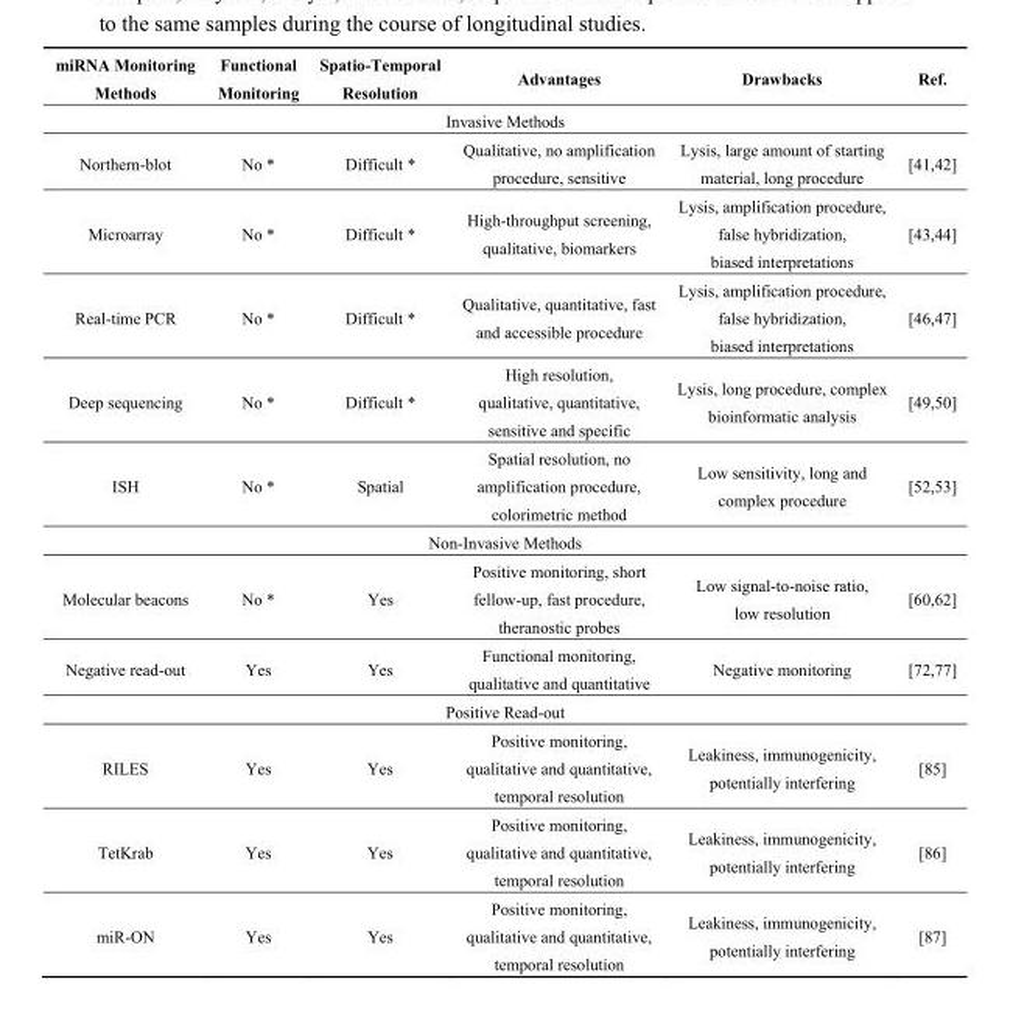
<table><thead><tr><td>miRNA Monitoring Methods</td><td>Functional Monitoring</td><td>Spatio-Temporal Resolution</td><td>Advantages</td><td>Drawbacks</td><td>Ref.</td></tr></thead><tbody><tr><td colspan="6">Invasive Methods</td></tr><tr><td>Northern-blot</td><td>No *</td><td>Difficult *</td><td>Qualitative, no amplification procedure, sensitive</td><td>Lysis, large amount of starting material, long procedure</td><td>[41,42]</td></tr><tr><td>Microarray</td><td>No *</td><td>Difficult *</td><td>High-throughput screening, qualitative, biomarkers</td><td>Lysis, amplification procedure, false hybridization, biased interpretations</td><td>[43,44]</td></tr><tr><td>Real-time PCR</td><td>No *</td><td>Difficult *</td><td>Qualitative, quantitative, fast and accessible procedure</td><td>Lysis, amplification procedure, false hybridization, biased interpretations</td><td>[46,47]</td></tr><tr><td>Deep sequencing</td><td>No *</td><td>Difficult *</td><td>High resolution, qualitative, quantitative, sensitive and specific</td><td>Lysis, long procedure, complex bioinformatic analysis</td><td>[49,50]</td></tr><tr><td>ISH</td><td>No *</td><td>Spatial</td><td>Spatial resolution, no amplification procedure, colorimetric method</td><td>Low sensitivity, long and complex procedure</td><td>[52,53]</td></tr><tr><td colspan="6">Non-Invasive Methods</td></tr><tr><td>Molecular beacons</td><td>No *</td><td>Yes</td><td>Positive monitoring, short fellow-up, fast procedure, theranostic probes</td><td>Low signal-to-noise ratio, low resolution</td><td>[60,62]</td></tr><tr><td>Negative read-out</td><td>Yes</td><td>Yes</td><td>Functional monitoring, qualitative and quantitative</td><td>Negative monitoring</td><td>[72,77]</td></tr><tr><td colspan="6">Positive Read-out</td></tr><tr><td>RILES</td><td>Yes</td><td>Yes</td><td>Positive monitoring, qualitative and quantitative, temporal resolution</td><td>Leakiness, immunogenicity, potentially interfering</td><td>[85]</td></tr><tr><td>TetKrab</td><td>Yes</td><td>Yes</td><td>Positive monitoring, qualitative and quantitative, temporal resolution</td><td>Leakiness, immunogenicity, potentially interfering</td><td>[86]</td></tr><tr><td>miR-ON</td><td>Yes</td><td>Yes</td><td>Positive monitoring, qualitative and quantitative, temporal resolution</td><td>Leakiness, immunogenicity, potentially interfering</td><td>[87]</td></tr></tbody></table>